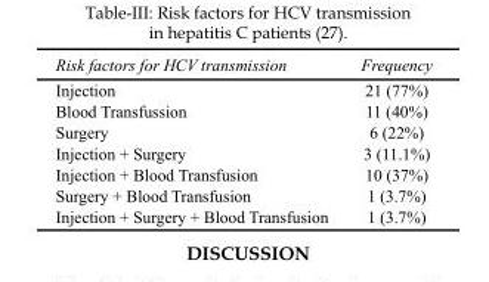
<table><thead><tr><td>Risk factors for HCV transmission</td><td>Frequency</td></tr></thead><tbody><tr><td>Injection</td><td>21 (77%)</td></tr><tr><td>Blood Transfussion</td><td>11 (40%)</td></tr><tr><td>Surgery</td><td>6 (22%)</td></tr><tr><td>Injection + Surgery</td><td>3 (11.1%)</td></tr><tr><td>Injection + Blood Transfusion</td><td>10 (37%)</td></tr><tr><td>Surgery + Blood Transfusion</td><td>1 (3.7%)</td></tr><tr><td>Injection + Surgery + Blood Transfusion</td><td>1 (3.7%)</td></tr></tbody></table>